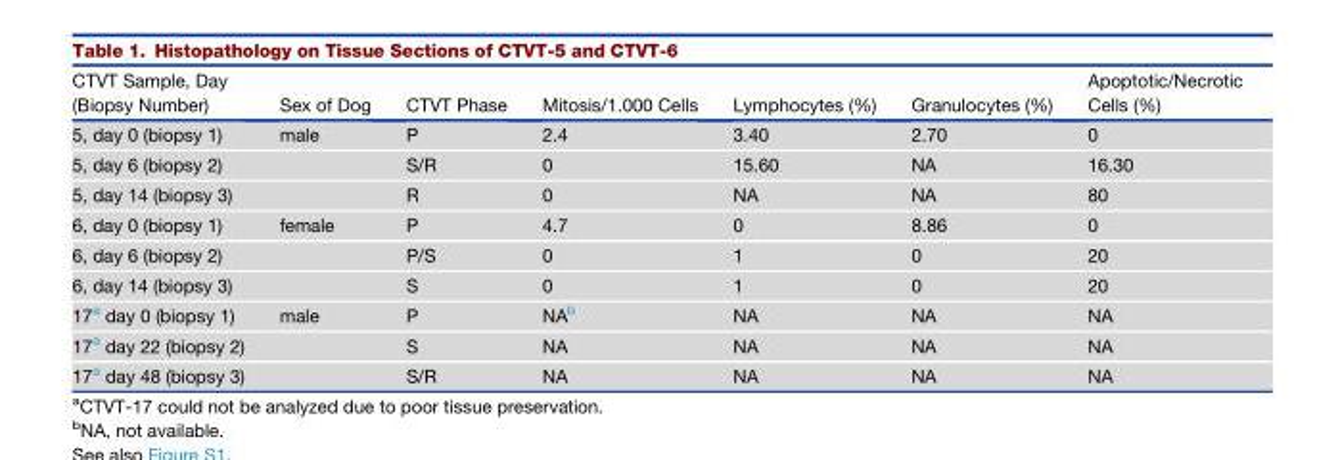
<table><thead><tr><td>CTVT Sample, Day (Biopsy Number)</td><td>Sex of Dog</td><td>CTVT Phase</td><td>Mitosis/1.000 Cells</td><td>Lymphocytes (%)</td><td>Granulocytes (%)</td><td>Apoptotic/Necrotic Cells (%)</td></tr></thead><tbody><tr><td>5, day 0 (biopsy 1)</td><td>male</td><td>P</td><td>2.4</td><td>3.40</td><td>2.70</td><td>0</td></tr><tr><td>5, day 6 (biopsy 2)</td><td></td><td>S/R</td><td>0</td><td>15.60</td><td>NA</td><td>16.30</td></tr><tr><td>5, day 14 (biopsy 3)</td><td></td><td>R</td><td>0</td><td>NA</td><td>NA</td><td>80</td></tr><tr><td>6, day 0 (biopsy 1)</td><td>female</td><td>P</td><td>4.7</td><td>0</td><td>8.86</td><td>0</td></tr><tr><td>6, day 6 (biopsy 2)</td><td></td><td>P/S</td><td>0</td><td>1</td><td>0</td><td>20</td></tr><tr><td>6, day 14 (biopsy 3)</td><td></td><td>S</td><td>0</td><td>1</td><td>0</td><td>20</td></tr><tr><td>17<sup>a</sup> day 0 (biopsy 1)</td><td>male</td><td>P</td><td>NA<sup>b</sup></td><td>NA</td><td>NA</td><td>NA</td></tr><tr><td>17<sup>a</sup> day 22 (biopsy 2)</td><td></td><td>S</td><td>NA</td><td>NA</td><td>NA</td><td>NA</td></tr><tr><td>17<sup>a</sup> day 48 (biopsy 3)</td><td></td><td>S/R</td><td>NA</td><td>NA</td><td>NA</td><td>NA</td></tr></tbody></table>